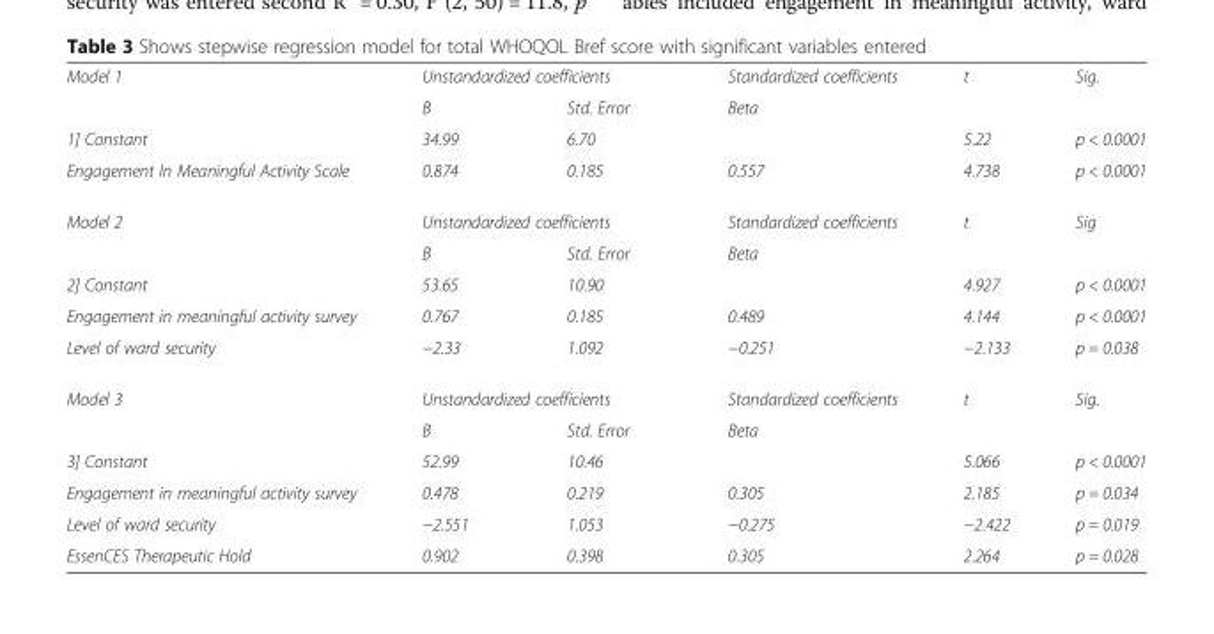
<table><tbody><tr><td rowspan="2">Model 1</td><td colspan="2">Unstandardized coefficients</td><td>Standardized coefficients</td><td>t</td><td>Sig.</td></tr><tr><td>B</td><td>Std. Error</td><td>Beta</td><td></td><td></td></tr><tr><td>1] Constant</td><td>34.99</td><td>6.70</td><td></td><td>5.22</td><td>p &lt; 0.0001</td></tr><tr><td>Engagement In Meaningful Activity Scale</td><td>0.874</td><td>0.185</td><td>0.557</td><td>4.738</td><td>p &lt; 0.0001</td></tr><tr><td rowspan="2">Model 2</td><td colspan="2">Unstandardized coefficients</td><td>Standardized coefficients</td><td>t</td><td>Sig</td></tr><tr><td>B</td><td>Std. Error</td><td>Beta</td><td></td><td></td></tr><tr><td>2] Constant</td><td>53.65</td><td>10.90</td><td></td><td>4.927</td><td>p &lt; 0.0001</td></tr><tr><td>Engagement in meaningful activity survey</td><td>0.767</td><td>0.185</td><td>0.489</td><td>4.144</td><td>p &lt; 0.0001</td></tr><tr><td>Level of ward security</td><td>−2.33</td><td>1.092</td><td>−0.251</td><td>−2.133</td><td>p = 0.038</td></tr><tr><td rowspan="2">Model 3</td><td colspan="2">Unstandardized coefficients</td><td>Standardized coefficients</td><td>t</td><td>Sig.</td></tr><tr><td>B</td><td>Std. Error</td><td>Beta</td><td></td><td></td></tr><tr><td>3] Constant</td><td>52.99</td><td>10.46</td><td></td><td>5.066</td><td>p &lt; 0.0001</td></tr><tr><td>Engagement in meaningful activity survey</td><td>0.478</td><td>0.219</td><td>0.305</td><td>2.185</td><td>p = 0.034</td></tr><tr><td>Level of ward security</td><td>−2.551</td><td>1.053</td><td>−0.275</td><td>−2.422</td><td>p = 0.019</td></tr><tr><td>EssenCES Therapeutic Hold</td><td>0.902</td><td>0.398</td><td>0.305</td><td>2.264</td><td>p = 0.028</td></tr></tbody></table>